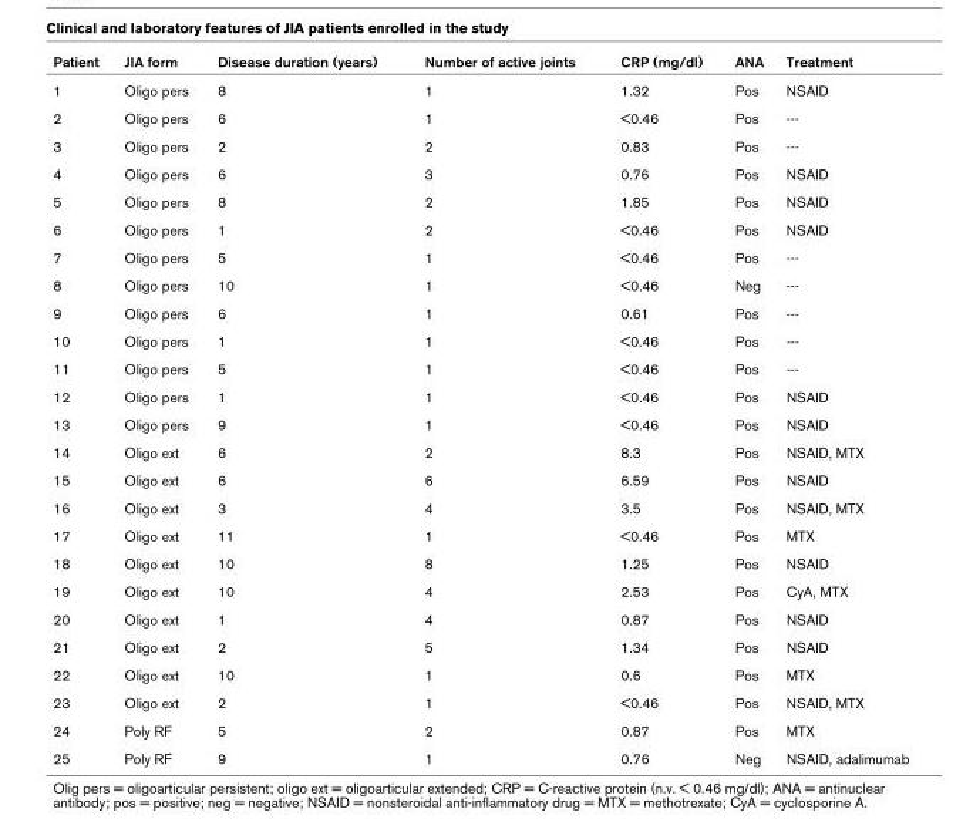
<table><thead><tr><td>Patient</td><td>JIA form</td><td>Disease duration (years)</td><td>Number of active joints</td><td>CRP (mg/dl)</td><td>ANA</td><td>Treatment</td></tr></thead><tbody><tr><td>1</td><td>Oligo pers</td><td>8</td><td>1</td><td>1.32</td><td>Pos</td><td>NSAID</td></tr><tr><td>2</td><td>Oligo pers</td><td>6</td><td>1</td><td>&lt;0.46</td><td>Pos</td><td>---</td></tr><tr><td>3</td><td>Oligo pers</td><td>2</td><td>2</td><td>0.83</td><td>Pos</td><td>---</td></tr><tr><td>4</td><td>Oligo pers</td><td>6</td><td>3</td><td>0.76</td><td>Pos</td><td>NSAID</td></tr><tr><td>5</td><td>Oligo pers</td><td>8</td><td>2</td><td>1.85</td><td>Pos</td><td>NSAID</td></tr><tr><td>6</td><td>Oligo pers</td><td>1</td><td>2</td><td>&lt;0.46</td><td>Pos</td><td>NSAID</td></tr><tr><td>7</td><td>Oligo pers</td><td>5</td><td>1</td><td>&lt;0.46</td><td>Pos</td><td>---</td></tr><tr><td>8</td><td>Oligo pers</td><td>10</td><td>1</td><td>&lt;0.46</td><td>Neg</td><td>---</td></tr><tr><td>9</td><td>Oligo pers</td><td>6</td><td>1</td><td>0.61</td><td>Pos</td><td>---</td></tr><tr><td>10</td><td>Oligo pers</td><td>1</td><td>1</td><td>&lt;0.46</td><td>Pos</td><td>---</td></tr><tr><td>11</td><td>Oligo pers</td><td>5</td><td>1</td><td>&lt;0.46</td><td>Pos</td><td>---</td></tr><tr><td>12</td><td>Oligo pers</td><td>1</td><td>1</td><td>&lt;0.46</td><td>Pos</td><td>NSAID</td></tr><tr><td>13</td><td>Oligo pers</td><td>9</td><td>1</td><td>&lt;0.46</td><td>Pos</td><td>NSAID</td></tr><tr><td>14</td><td>Oligo ext</td><td>6</td><td>2</td><td>8.3</td><td>Pos</td><td>NSAID, MTX</td></tr><tr><td>15</td><td>Oligo ext</td><td>6</td><td>6</td><td>6.59</td><td>Pos</td><td>NSAID</td></tr><tr><td>16</td><td>Oligo ext</td><td>3</td><td>4</td><td>3.5</td><td>Pos</td><td>NSAID, MTX</td></tr><tr><td>17</td><td>Oligo ext</td><td>11</td><td>1</td><td>&lt;0.46</td><td>Pos</td><td>MTX</td></tr><tr><td>18</td><td>Oligo ext</td><td>10</td><td>8</td><td>1.25</td><td>Pos</td><td>NSAID</td></tr><tr><td>19</td><td>Oligo ext</td><td>10</td><td>4</td><td>2.53</td><td>Pos</td><td>CyA, MTX</td></tr><tr><td>20</td><td>Oligo ext</td><td>1</td><td>4</td><td>0.87</td><td>Pos</td><td>NSAID</td></tr><tr><td>21</td><td>Oligo ext</td><td>2</td><td>5</td><td>1.34</td><td>Pos</td><td>NSAID</td></tr><tr><td>22</td><td>Oligo ext</td><td>10</td><td>1</td><td>0.6</td><td>Pos</td><td>MTX</td></tr><tr><td>23</td><td>Oligo ext</td><td>2</td><td>1</td><td>&lt;0.46</td><td>Pos</td><td>NSAID, MTX</td></tr><tr><td>24</td><td>Poly RF</td><td>5</td><td>2</td><td>0.87</td><td>Pos</td><td>MTX</td></tr><tr><td>25</td><td>Poly RF</td><td>9</td><td>1</td><td>0.76</td><td>Neg</td><td>NSAID, adalimumab</td></tr></tbody></table>